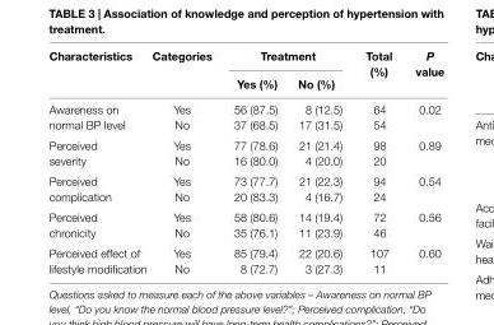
<table><thead><tr><td rowspan="2">characteristics</td><td rowspan="2">categories</td><td colspan="2">Treatment</td><td rowspan="2">Total (%)</td><td rowspan="2">P value</td></tr><tr><td>Yes (%)</td><td>no (%)</td></tr></thead><tbody><tr><td rowspan="2">Awareness on normal BP level</td><td>Yes</td><td>56 (87.5)</td><td>8 (12.5)</td><td>64</td><td rowspan="2">0.02</td></tr><tr><td>No</td><td>37 (68.5)</td><td>17 (31.5)</td><td>54</td></tr><tr><td rowspan="2">Perceived severity</td><td>Yes</td><td>77 (78.6)</td><td>21 (21.4)</td><td>98</td><td rowspan="2">0.89</td></tr><tr><td>No</td><td>16 (80.0)</td><td>4 (20.0)</td><td>20</td></tr><tr><td rowspan="2">Perceived complication</td><td>Yes</td><td>73 (77.7)</td><td>21 (22.3)</td><td>94</td><td rowspan="2">0.54</td></tr><tr><td>No</td><td>20 (83.3)</td><td>4 (16.7)</td><td>24</td></tr><tr><td rowspan="2">Perceived chronicity</td><td>Yes</td><td>58 (80.6)</td><td>14 (19.4)</td><td>72</td><td rowspan="2">0.56</td></tr><tr><td>No</td><td>35 (76.1)</td><td>11 (23.9)</td><td>46</td></tr><tr><td rowspan="2">Perceived effect of lifestyle modification</td><td>Yes</td><td>85 (79.4)</td><td>22 (20.6)</td><td>107</td><td rowspan="2">0.60</td></tr><tr><td>No</td><td>8 (72.7)</td><td>3 (27.3)</td><td>11</td></tr></tbody></table>